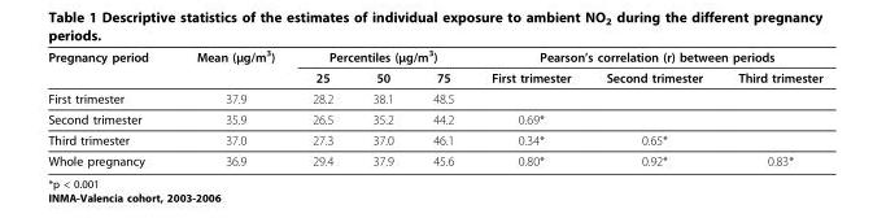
<table><thead><tr><td rowspan="2">Pregnancy period</td><td rowspan="2">Mean (μg/m<sup>3</sup>)</td><td colspan="3">Percentiles (μg/m<sup>3</sup>)</td><td colspan="3">Pearson’s correlation (r) between periods</td></tr><tr><td>25</td><td>50</td><td>75</td><td>First trimester</td><td>Second trimester</td><td>Third trimester</td></tr></thead><tbody><tr><td>First trimester</td><td>37.9</td><td>28.2</td><td>38.1</td><td>48.5</td><td></td><td></td><td></td></tr><tr><td>Second trimester</td><td>35.9</td><td>26.5</td><td>35.2</td><td>44.2</td><td>0.69*</td><td></td><td></td></tr><tr><td>Third trimester</td><td>37.0</td><td>27.3</td><td>37.0</td><td>46.1</td><td>0.34*</td><td>0.65*</td><td></td></tr><tr><td>Whole pregnancy</td><td>36.9</td><td>29.4</td><td>37.9</td><td>45.6</td><td>0.80*</td><td>0.92*</td><td>0.83*</td></tr></tbody></table>